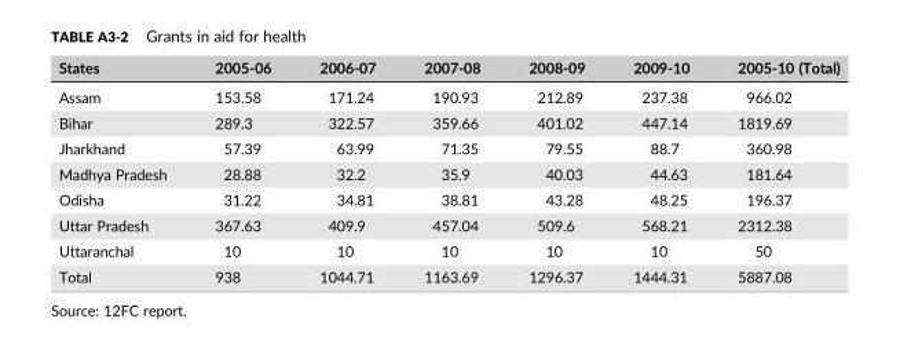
<table><thead><tr><td>States</td><td>2005‐06</td><td>2006‐07</td><td>2007‐08</td><td>2008‐09</td><td>2009‐10</td><td>2005‐10 (Total)</td></tr></thead><tbody><tr><td>Assam</td><td>153.58</td><td>171.24</td><td>190.93</td><td>212.89</td><td>237.38</td><td>966.02</td></tr><tr><td>Bihar</td><td>289.3</td><td>322.57</td><td>359.66</td><td>401.02</td><td>447.14</td><td>1819.69</td></tr><tr><td>Jharkhand</td><td>57.39</td><td>63.99</td><td>71.35</td><td>79.55</td><td>88.7</td><td>360.98</td></tr><tr><td>Madhya Pradesh</td><td>28.88</td><td>32.2</td><td>35.9</td><td>40.03</td><td>44.63</td><td>181.64</td></tr><tr><td>Odisha</td><td>31.22</td><td>34.81</td><td>38.81</td><td>43.28</td><td>48.25</td><td>196.37</td></tr><tr><td>Uttar Pradesh</td><td>367.63</td><td>409.9</td><td>457.04</td><td>509.6</td><td>568.21</td><td>2312.38</td></tr><tr><td>Uttaranchal</td><td>10</td><td>10</td><td>10</td><td>10</td><td>10</td><td>50</td></tr><tr><td>Total</td><td>938</td><td>1044.71</td><td>1163.69</td><td>1296.37</td><td>1444.31</td><td>5887.08</td></tr></tbody></table>